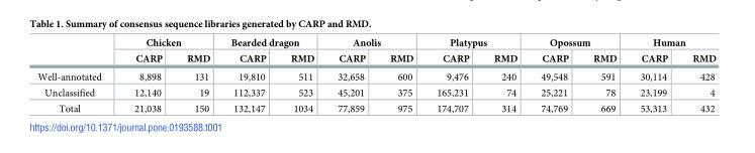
<table><thead><tr><td rowspan="2"></td><td colspan="2">Chicken</td><td colspan="2">Bearded dragon</td><td colspan="2">Anolis</td><td colspan="2">Platypus</td><td colspan="2">Opossum</td><td colspan="2">Human</td></tr><tr><td>CARP</td><td>RMD</td><td>CARP</td><td>RMD</td><td>CARP</td><td>RMD</td><td>CARP</td><td>RMD</td><td>CARP</td><td>RMD</td><td>CARP</td><td>RMD</td></tr></thead><tbody><tr><td>Well-annotated</td><td>8,898</td><td>131</td><td>19,810</td><td>511</td><td>32,658</td><td>600</td><td>9,476</td><td>240</td><td>49,548</td><td>591</td><td>30,114</td><td>428</td></tr><tr><td>Unclassified</td><td>12,140</td><td>19</td><td>112,337</td><td>523</td><td>45,201</td><td>375</td><td>165,231</td><td>74</td><td>25,221</td><td>78</td><td>23,199</td><td>4</td></tr><tr><td>Total</td><td>21,038</td><td>150</td><td>132,147</td><td>1034</td><td>77,859</td><td>975</td><td>174,707</td><td>314</td><td>74,769</td><td>669</td><td>53,313</td><td>432</td></tr></tbody></table>